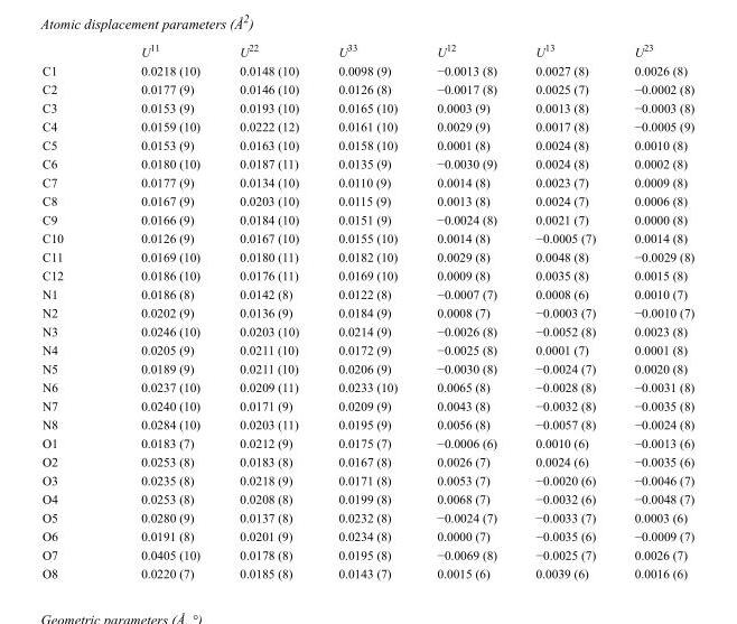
<table><thead><tr><td></td><td>U<sup>11</sup></td><td>U<sup>22</sup></td><td>U<sup>33</sup></td><td>U<sup>12</sup></td><td>U<sup>13</sup></td><td>U<sup>23</sup></td></tr></thead><tbody><tr><td>C1</td><td>0.0218 (10)</td><td>0.0148 (10)</td><td>0.0098 (9)</td><td>−0.0013 (8)</td><td>0.0027 (8)</td><td>0.0026 (8)</td></tr><tr><td>C2</td><td>0.0177 (9)</td><td>0.0146 (10)</td><td>0.0126 (8)</td><td>−0.0017 (8)</td><td>0.0025 (7)</td><td>−0.0002 (8)</td></tr><tr><td>C3</td><td>0.0153 (9)</td><td>0.0193 (10)</td><td>0.0165 (10)</td><td>0.0003 (9)</td><td>0.0013 (8)</td><td>−0.0003 (8)</td></tr><tr><td>C4</td><td>0.0159 (10)</td><td>0.0222 (12)</td><td>0.0161 (10)</td><td>0.0029 (9)</td><td>0.0017 (8)</td><td>−0.0005 (9)</td></tr><tr><td>C5</td><td>0.0153 (9)</td><td>0.0163 (10)</td><td>0.0158 (10)</td><td>0.0001 (8)</td><td>0.0024 (8)</td><td>0.0010 (8)</td></tr><tr><td>C6</td><td>0.0180 (10)</td><td>0.0187 (11)</td><td>0.0135 (9)</td><td>−0.0030 (9)</td><td>0.0024 (8)</td><td>0.0002 (8)</td></tr><tr><td>C7</td><td>0.0177 (9)</td><td>0.0134 (10)</td><td>0.0110 (9)</td><td>0.0014 (8)</td><td>0.0023 (7)</td><td>0.0009 (8)</td></tr><tr><td>C8</td><td>0.0167 (9)</td><td>0.0203 (10)</td><td>0.0115 (9)</td><td>0.0013 (8)</td><td>0.0024 (7)</td><td>0.0006 (8)</td></tr><tr><td>C9</td><td>0.0166 (9)</td><td>0.0184 (10)</td><td>0.0151 (9)</td><td>−0.0024 (8)</td><td>0.0021 (7)</td><td>0.0000 (8)</td></tr><tr><td>C10</td><td>0.0126 (9)</td><td>0.0167 (10)</td><td>0.0155 (10)</td><td>0.0014 (8)</td><td>−0.0005 (7)</td><td>0.0014 (8)</td></tr><tr><td>C11</td><td>0.0169 (10)</td><td>0.0180 (11)</td><td>0.0182 (10)</td><td>0.0029 (8)</td><td>0.0048 (8)</td><td>−0.0029 (8)</td></tr><tr><td>C12</td><td>0.0186 (10)</td><td>0.0176 (11)</td><td>0.0169 (10)</td><td>0.0009 (8)</td><td>0.0035 (8)</td><td>0.0015 (8)</td></tr><tr><td>N1</td><td>0.0186 (8)</td><td>0.0142 (8)</td><td>0.0122 (8)</td><td>−0.0007 (7)</td><td>0.0008 (6)</td><td>0.0010 (7)</td></tr><tr><td>N2</td><td>0.0202 (9)</td><td>0.0136 (9)</td><td>0.0184 (9)</td><td>0.0008 (7)</td><td>−0.0003 (7)</td><td>−0.0010 (7)</td></tr><tr><td>N3</td><td>0.0246 (10)</td><td>0.0203 (10)</td><td>0.0214 (9)</td><td>−0.0026 (8)</td><td>−0.0052 (8)</td><td>0.0023 (8)</td></tr><tr><td>N4</td><td>0.0205 (9)</td><td>0.0211 (10)</td><td>0.0172 (9)</td><td>−0.0025 (8)</td><td>0.0001 (7)</td><td>0.0001 (8)</td></tr><tr><td>N5</td><td>0.0189 (9)</td><td>0.0211 (10)</td><td>0.0206 (9)</td><td>−0.0030 (8)</td><td>−0.0024 (7)</td><td>0.0020 (8)</td></tr><tr><td>N6</td><td>0.0237 (10)</td><td>0.0209 (11)</td><td>0.0233 (10)</td><td>0.0065 (8)</td><td>−0.0028 (8)</td><td>−0.0031 (8)</td></tr><tr><td>N7</td><td>0.0240 (10)</td><td>0.0171 (9)</td><td>0.0209 (9)</td><td>0.0043 (8)</td><td>−0.0032 (8)</td><td>−0.0035 (8)</td></tr><tr><td>N8</td><td>0.0284 (10)</td><td>0.0203 (11)</td><td>0.0195 (9)</td><td>0.0056 (8)</td><td>−0.0057 (8)</td><td>−0.0024 (8)</td></tr><tr><td>O1</td><td>0.0183 (7)</td><td>0.0212 (9)</td><td>0.0175 (7)</td><td>−0.0006 (6)</td><td>0.0010 (6)</td><td>−0.0013 (6)</td></tr><tr><td>O2</td><td>0.0253 (8)</td><td>0.0183 (8)</td><td>0.0167 (8)</td><td>0.0026 (7)</td><td>0.0024 (6)</td><td>−0.0035 (6)</td></tr><tr><td>O3</td><td>0.0235 (8)</td><td>0.0218 (9)</td><td>0.0171 (8)</td><td>0.0053 (7)</td><td>−0.0020 (6)</td><td>−0.0046 (7)</td></tr><tr><td>O4</td><td>0.0253 (8)</td><td>0.0208 (8)</td><td>0.0199 (8)</td><td>0.0068 (7)</td><td>−0.0032 (6)</td><td>−0.0048 (7)</td></tr><tr><td>O5</td><td>0.0280 (9)</td><td>0.0137 (8)</td><td>0.0232 (8)</td><td>−0.0024 (7)</td><td>−0.0033 (7)</td><td>0.0003 (6)</td></tr><tr><td>O6</td><td>0.0191 (8)</td><td>0.0201 (9)</td><td>0.0234 (8)</td><td>0.0000 (7)</td><td>−0.0035 (6)</td><td>−0.0009 (7)</td></tr><tr><td>O7</td><td>0.0405 (10)</td><td>0.0178 (8)</td><td>0.0195 (8)</td><td>−0.0069 (8)</td><td>−0.0025 (7)</td><td>0.0026 (7)</td></tr><tr><td>O8</td><td>0.0220 (7)</td><td>0.0185 (8)</td><td>0.0143 (7)</td><td>0.0015 (6)</td><td>0.0039 (6)</td><td>0.0016 (6)</td></tr></tbody></table>